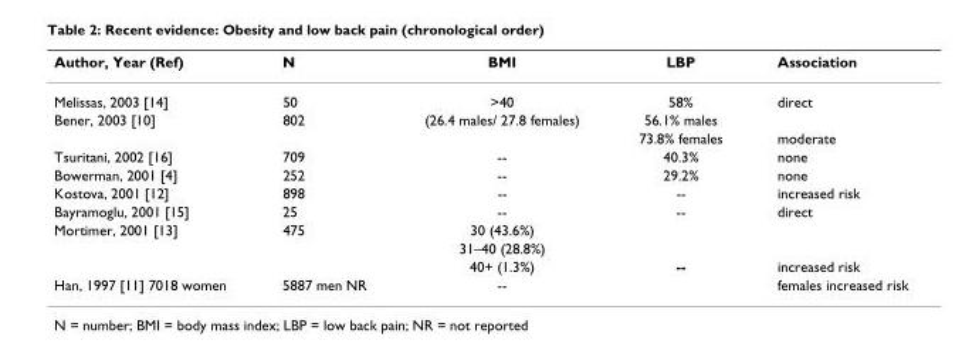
<table><thead><tr><td>Author, Year (Ref)</td><td>N</td><td>BMI</td><td>LBP</td><td>Association</td></tr></thead><tbody><tr><td>Melissas, 2003 [14]</td><td>50</td><td>&gt;40</td><td>58%</td><td>direct</td></tr><tr><td rowspan="2">Bener, 2003 [10]</td><td>802</td><td>(26.4 males/ 27.8 females)</td><td>56.1% males</td><td></td></tr><tr><td></td><td></td><td>73.8% females</td><td>moderate</td></tr><tr><td>Tsuritani, 2002 [16]</td><td>709</td><td>--</td><td>40.3%</td><td>none</td></tr><tr><td>Bowerman, 2001 [4]</td><td>252</td><td>--</td><td>29.2%</td><td>none</td></tr><tr><td>Kostova, 2001 [12]</td><td>898</td><td>--</td><td>--</td><td>increased risk</td></tr><tr><td>Bayramoglu, 2001 [15]</td><td>25</td><td>--</td><td>--</td><td>direct</td></tr><tr><td rowspan="3">Mortimer, 2001 [13]</td><td>475</td><td>30 (43.6%)</td><td></td><td></td></tr><tr><td></td><td>31–40 (28.8%)</td><td></td><td></td></tr><tr><td></td><td>40+ (1.3%)</td><td>--</td><td>increased risk</td></tr><tr><td>Han, 1997 [11] 7018 women</td><td>5887 men NR</td><td>--</td><td></td><td>females increased risk</td></tr></tbody></table>